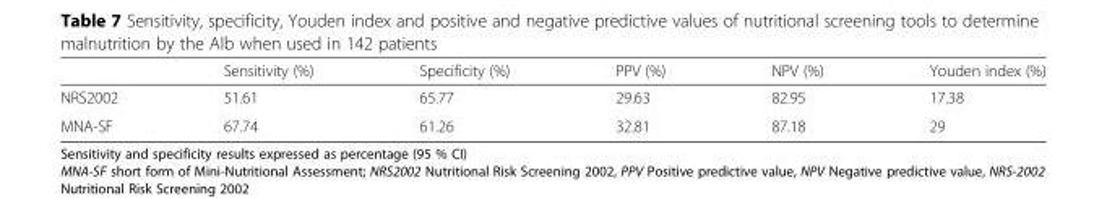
<table><thead><tr><td></td><td>Sensitivity (%)</td><td>Specificity (%)</td><td>PPV (%)</td><td>NPV (%)</td><td>Youden index (%)</td></tr></thead><tbody><tr><td>NRS2002</td><td>51.61</td><td>65.77</td><td>29.63</td><td>82.95</td><td>17.38</td></tr><tr><td>MNA-SF</td><td>67.74</td><td>61.26</td><td>32.81</td><td>87.18</td><td>29</td></tr></tbody></table>